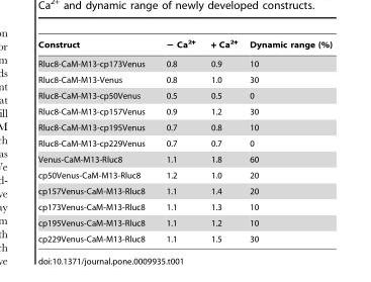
<table><thead><tr><td>Construct</td><td>− Ca<sup>2+</sup></td><td>+ Ca<sup>2+</sup></td><td>Dynamic range (%)</td></tr></thead><tbody><tr><td>Rluc8-CaM-M13-cp173Venus</td><td>0.8</td><td>0.9</td><td>10</td></tr><tr><td>Rluc8-CaM-M13-Venus</td><td>0.8</td><td>1.0</td><td>30</td></tr><tr><td>Rluc8-CaM-M13-cp50Venus</td><td>0.5</td><td>0.5</td><td>0</td></tr><tr><td>Rluc8-CaM-M13-cp157Venus</td><td>0.9</td><td>1.2</td><td>30</td></tr><tr><td>Rluc8-CaM-M13-cp195Venus</td><td>0.7</td><td>0.8</td><td>10</td></tr><tr><td>Rluc8-CaM-M13-cp229Venus</td><td>0.7</td><td>0.7</td><td>0</td></tr><tr><td>Venus-CaM-M13-Rluc8</td><td>1.1</td><td>1.8</td><td>60</td></tr><tr><td>cp50Venus-CaM-M13-Rluc8</td><td>1.2</td><td>1.0</td><td>20</td></tr><tr><td>cp157Venus-CaM-M13-Rluc8</td><td>1.1</td><td>1.4</td><td>20</td></tr><tr><td>cp173Venus-CaM-M13-Rluc8</td><td>1.1</td><td>1.3</td><td>10</td></tr><tr><td>cp195Venus-CaM-M13-Rluc8</td><td>1.1</td><td>1.2</td><td>10</td></tr><tr><td>cp229Venus-CaM-M13-Rluc8</td><td>1.1</td><td>1.5</td><td>30</td></tr></tbody></table>